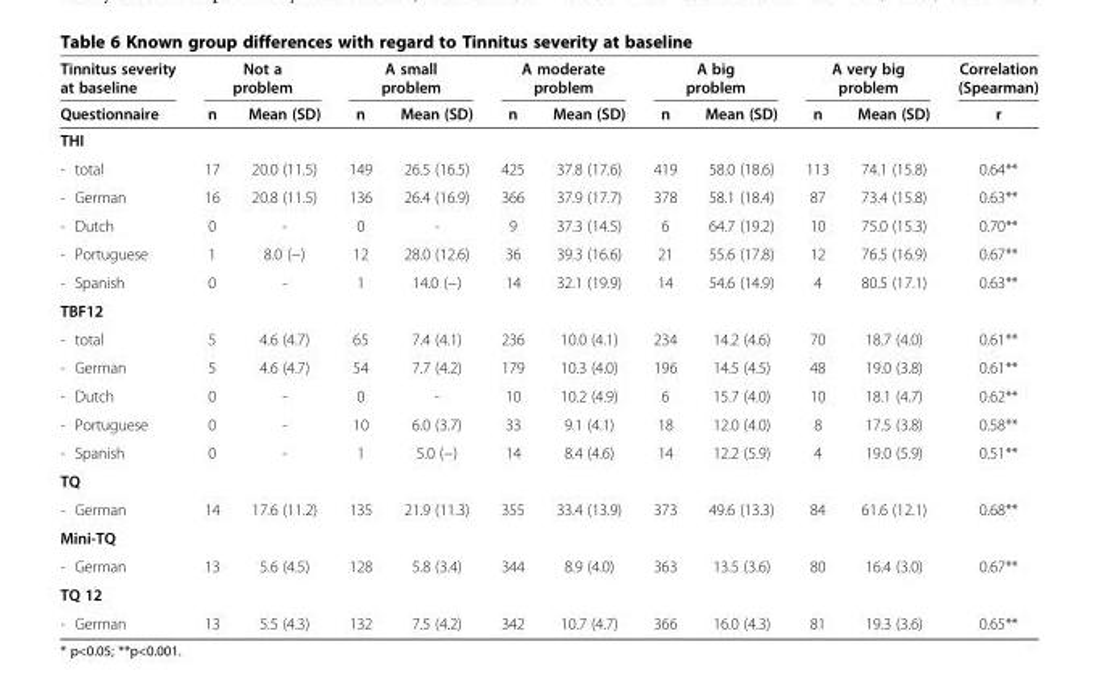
<table><thead><tr><td rowspan="2">Tinnitus severity at baseline Questionnaire</td><td colspan="2">Not a problem</td><td colspan="2">A small problem</td><td colspan="2">A moderate problem</td><td colspan="2">A big problem</td><td colspan="2">A very big problem</td><td rowspan="2">Correlation (Spearman) r</td></tr><tr><td>n</td><td>Mean (SD)</td><td>n</td><td>Mean (SD)</td><td>n</td><td>Mean (SD)</td><td>n</td><td>Mean (SD)</td><td>n</td><td>Mean (SD)</td></tr></thead><tbody><tr><td colspan="12">THI</td></tr><tr><td>- total</td><td>17</td><td>20.0 (11.5)</td><td>149</td><td>26.5 (16.5)</td><td>425</td><td>37.8 (17.6)</td><td>419</td><td>58.0 (18.6)</td><td>113</td><td>74.1 (15.8)</td><td>0.64**</td></tr><tr><td>- German</td><td>16</td><td>20.8 (11.5)</td><td>136</td><td>26.4 (16.9)</td><td>366</td><td>37.9 (17.7)</td><td>378</td><td>58.1 (18.4)</td><td>87</td><td>73.4 (15.8)</td><td>0.63**</td></tr><tr><td>- Dutch</td><td>0</td><td>-</td><td>0</td><td>-</td><td>9</td><td>37.3 (14.5)</td><td>6</td><td>64.7 (19.2)</td><td>10</td><td>75.0 (15.3)</td><td>0.70**</td></tr><tr><td>- Portuguese</td><td>1</td><td>8.0 (−)</td><td>12</td><td>28.0 (12.6)</td><td>36</td><td>39.3 (16.6)</td><td>21</td><td>55.6 (17.8)</td><td>12</td><td>76.5 (16.9)</td><td>0.67**</td></tr><tr><td>- Spanish</td><td>0</td><td>-</td><td>1</td><td>14.0 (−)</td><td>14</td><td>32.1 (19.9)</td><td>14</td><td>54.6 (14.9)</td><td>4</td><td>80.5 (17.1)</td><td>0.63**</td></tr><tr><td colspan="12">TBF12</td></tr><tr><td>- total</td><td>5</td><td>4.6 (4.7)</td><td>65</td><td>7.4 (4.1)</td><td>236</td><td>10.0 (4.1)</td><td>234</td><td>14.2 (4.6)</td><td>70</td><td>18.7 (4.0)</td><td>0.61**</td></tr><tr><td>- German</td><td>5</td><td>4.6 (4.7)</td><td>54</td><td>7.7 (4.2)</td><td>179</td><td>10.3 (4.0)</td><td>196</td><td>14.5 (4.5)</td><td>48</td><td>19.0 (3.8)</td><td>0.61**</td></tr><tr><td>- Dutch</td><td>0</td><td>-</td><td>0</td><td>-</td><td>10</td><td>10.2 (4.9)</td><td>6</td><td>15.7 (4.0)</td><td>10</td><td>18.1 (4.7)</td><td>0.62**</td></tr><tr><td>- Portuguese</td><td>0</td><td>-</td><td>10</td><td>6.0 (3.7)</td><td>33</td><td>9.1 (4.1)</td><td>18</td><td>12.0 (4.0)</td><td>8</td><td>17.5 (3.8)</td><td>0.58**</td></tr><tr><td>- Spanish</td><td>0</td><td>-</td><td>1</td><td>5.0 (−)</td><td>14</td><td>8.4 (4.6)</td><td>14</td><td>12.2 (5.9)</td><td>4</td><td>19.0 (5.9)</td><td>0.51**</td></tr><tr><td colspan="12">TQ</td></tr><tr><td>- German</td><td>14</td><td>17.6 (11.2)</td><td>135</td><td>21.9 (11.3)</td><td>355</td><td>33.4 (13.9)</td><td>373</td><td>49.6 (13.3)</td><td>84</td><td>61.6 (12.1)</td><td>0.68**</td></tr><tr><td colspan="12">Mini-TQ</td></tr><tr><td>- German</td><td>13</td><td>5.6 (4.5)</td><td>128</td><td>5.8 (3.4)</td><td>344</td><td>8.9 (4.0)</td><td>363</td><td>13.5 (3.6)</td><td>80</td><td>16.4 (3.0)</td><td>0.67**</td></tr><tr><td colspan="12">TQ 12</td></tr><tr><td>- German</td><td>13</td><td>5.5 (4.3)</td><td>132</td><td>7.5 (4.2)</td><td>342</td><td>10.7 (4.7)</td><td>366</td><td>16.0 (4.3)</td><td>81</td><td>19.3 (3.6)</td><td>0.65**</td></tr></tbody></table>